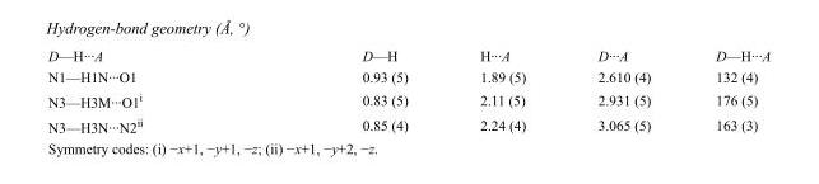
<table><tbody><tr><td>D—H···A</td><td>D—H</td><td>H···A</td><td>D···A</td><td>D—H···A</td></tr><tr><td>N1—H1N···O1</td><td>0.93 (5)</td><td>1.89 (5)</td><td>2.610 (4)</td><td>132 (4)</td></tr><tr><td>N3—H3M···O1<sup>i</sup></td><td>0.83 (5)</td><td>2.11 (5)</td><td>2.931 (5)</td><td>176 (5)</td></tr><tr><td>N3—H3N···N2<sup>ii</sup></td><td>0.85 (4)</td><td>2.24 (4)</td><td>3.065 (5)</td><td>163 (3)</td></tr></tbody></table>